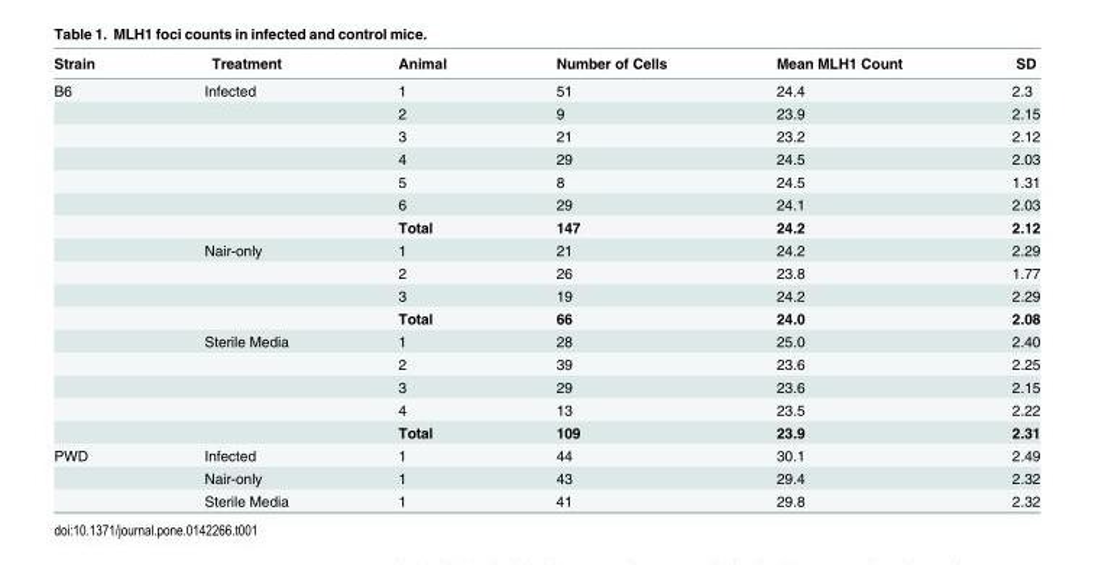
<table><thead><tr><td>Strain</td><td>Treatment</td><td>Animal</td><td>Number of Cells</td><td>Mean MLH1 Count</td><td>SD</td></tr></thead><tbody><tr><td rowspan="16">B6</td><td>Infected</td><td>1</td><td>51</td><td>24.4</td><td>2.3</td></tr><tr><td></td><td>2</td><td>9</td><td>23.9</td><td>2.15</td></tr><tr><td></td><td>3</td><td>21</td><td>23.2</td><td>2.12</td></tr><tr><td></td><td>4</td><td>29</td><td>24.5</td><td>2.03</td></tr><tr><td></td><td>5</td><td>8</td><td>24.5</td><td>1.31</td></tr><tr><td></td><td>6</td><td>29</td><td>24.1</td><td>2.03</td></tr><tr><td></td><td>Total</td><td>147</td><td>24.2</td><td>2.12</td></tr><tr><td>Nair-only</td><td>1</td><td>21</td><td>24.2</td><td>2.29</td></tr><tr><td></td><td>2</td><td>26</td><td>23.8</td><td>1.77</td></tr><tr><td></td><td>3</td><td>19</td><td>24.2</td><td>2.29</td></tr><tr><td></td><td>Total</td><td>66</td><td>24.0</td><td>2.08</td></tr><tr><td>Sterile Media</td><td>1</td><td>28</td><td>25.0</td><td>2.40</td></tr><tr><td></td><td>2</td><td>39</td><td>23.6</td><td>2.25</td></tr><tr><td></td><td>3</td><td>29</td><td>23.6</td><td>2.15</td></tr><tr><td></td><td>4</td><td>13</td><td>23.5</td><td>2.22</td></tr><tr><td></td><td>Total</td><td>109</td><td>23.9</td><td>2.31</td></tr><tr><td rowspan="3">PWD</td><td>Infected</td><td>1</td><td>44</td><td>30.1</td><td>2.49</td></tr><tr><td>Nair-only</td><td>1</td><td>43</td><td>29.4</td><td>2.32</td></tr><tr><td>Sterile Media</td><td>1</td><td>41</td><td>29.8</td><td>2.32</td></tr></tbody></table>